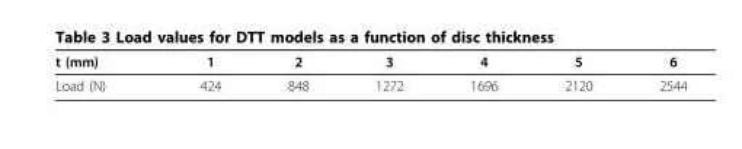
<table><thead><tr><td>t (mm)</td><td>1</td><td>2</td><td>3</td><td>4</td><td>5</td><td>6</td></tr></thead><tbody><tr><td>Load (N)</td><td>424</td><td>848</td><td>1272</td><td>1696</td><td>2120</td><td>2544</td></tr></tbody></table>